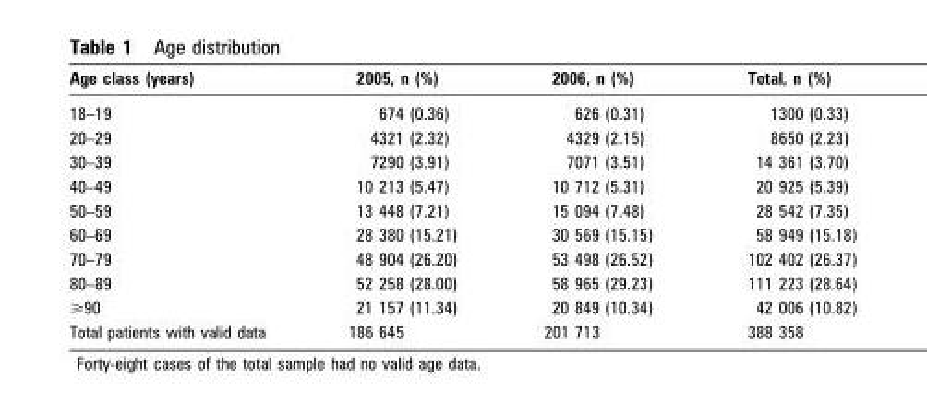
<table><thead><tr><td>Age class (years)</td><td>2005, n (%)</td><td>2006, n (%)</td><td>Total, n (%)</td></tr></thead><tbody><tr><td>18–19</td><td>674 (0.36)</td><td>626 (0.31)</td><td>1300 (0.33)</td></tr><tr><td>20–29</td><td>4321 (2.32)</td><td>4329 (2.15)</td><td>8650 (2.23)</td></tr><tr><td>30–39</td><td>7290 (3.91)</td><td>7071 (3.51)</td><td>14 361 (3.70)</td></tr><tr><td>40–49</td><td>10 213 (5.47)</td><td>10 712 (5.31)</td><td>20 925 (5.39)</td></tr><tr><td>50–59</td><td>13 448 (7.21)</td><td>15 094 (7.48)</td><td>28 542 (7.35)</td></tr><tr><td>60–69</td><td>28 380 (15.21)</td><td>30 569 (15.15)</td><td>58 949 (15.18)</td></tr><tr><td>70–79</td><td>48 904 (26.20)</td><td>53 498 (26.52)</td><td>102 402 (26.37)</td></tr><tr><td>80–89</td><td>52 258 (28.00)</td><td>58 965 (29.23)</td><td>111 223 (28.64)</td></tr><tr><td>&gt;90</td><td>21 157 (11.34)</td><td>20 849 (10.34)</td><td>42 006 (10.82)</td></tr><tr><td>Total patients with valid data</td><td>186 645</td><td>201 713</td><td>388 358</td></tr></tbody></table>